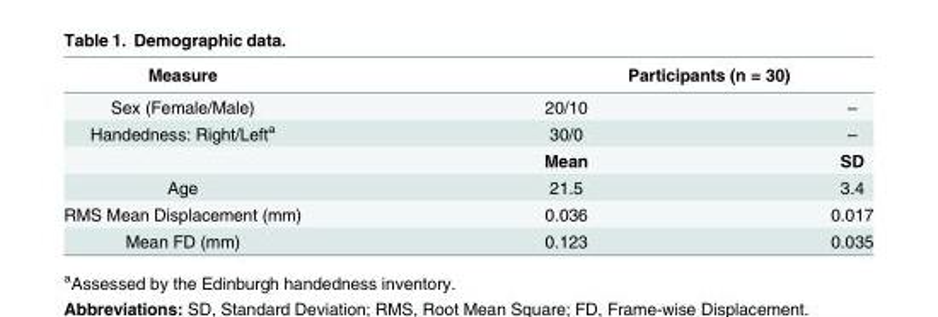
<table><thead><tr><td rowspan="2">Measure Sex (Female/Male)</td><td colspan="2">Participants (n = 30)</td></tr><tr><td>20/10</td><td>–</td></tr></thead><tbody><tr><td rowspan="2">Handedness: Right/Left<sup>a</sup></td><td>30/0</td><td>–</td></tr><tr><td>Mean</td><td>SD</td></tr><tr><td>Age</td><td>21.5</td><td>3.4</td></tr><tr><td>RMS Mean Displacement (mm)</td><td>0.036</td><td>0.017</td></tr><tr><td>Mean FD (mm)</td><td>0.123</td><td>0.035</td></tr></tbody></table>